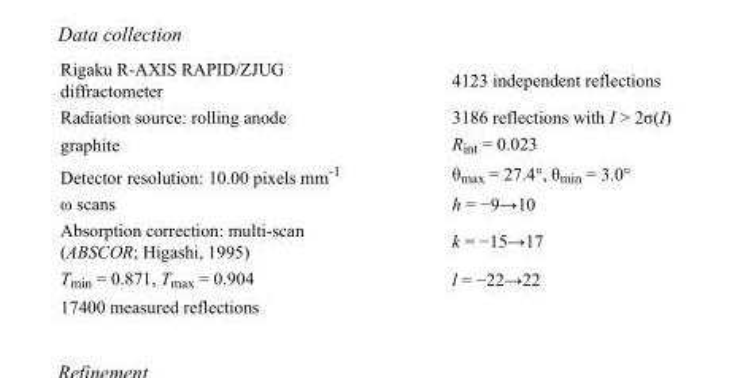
<table><tbody><tr><td>Rigaku R-AXIS RAPID/ZJUG diffractometer</td><td>4123 independent reflections</td></tr><tr><td>Radiation source: rolling anode</td><td>3186 reflections with I &gt; 2σ(I)</td></tr><tr><td>graphite</td><td>R<sub>int</sub> = 0.023</td></tr><tr><td>Detector resolution: 10.00 pixels mm<sup>-1</sup></td><td>θ<sub>max</sub> = 27.4°, θ<sub>min</sub> = 3.0°</td></tr><tr><td>ω scans</td><td>h = −9→10</td></tr><tr><td>Absorption correction: multi-scan (ABSCOR; Higashi, 1995)</td><td>k = −15→17</td></tr><tr><td>T<sub>min</sub> = 0.871, T<sub>max</sub> = 0.904</td><td>l = −22→22</td></tr><tr><td>17400 measured reflections</td><td></td></tr></tbody></table>